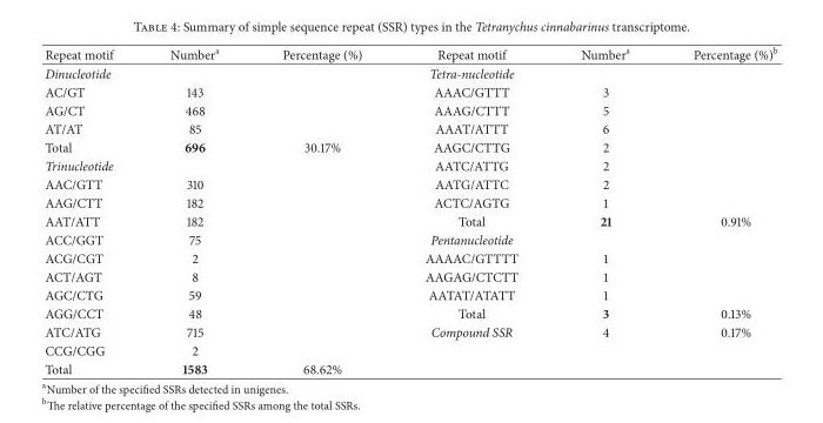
<table><thead><tr><td>Repeat motif</td><td>Number<sup>a</sup></td><td>Percentage (%)</td><td>Repeat motif</td><td>Number<sup>a</sup></td><td>Percentage (%)<sup>b</sup></td></tr></thead><tbody><tr><td>Dinucleotide</td><td></td><td></td><td>Tetra-nucleotide</td><td></td><td></td></tr><tr><td>AC/GT</td><td>143</td><td></td><td>AAAC/GTTT</td><td>3</td><td></td></tr><tr><td>AG/CT</td><td>468</td><td></td><td>AAAG/CTTT</td><td>5</td><td></td></tr><tr><td>AT/AT</td><td>85</td><td></td><td>AAAT/ATTT</td><td>6</td><td></td></tr><tr><td>Total</td><td>696</td><td>30.17%</td><td>AAGC/CTTG</td><td>2</td><td></td></tr><tr><td>Trinucleotide</td><td></td><td></td><td>AATC/ATTG</td><td>2</td><td></td></tr><tr><td>AAC/GTT</td><td>310</td><td></td><td>AATG/ATTC</td><td>2</td><td></td></tr><tr><td>AAG/CTT</td><td>182</td><td></td><td>ACTC/AGTG</td><td>1</td><td></td></tr><tr><td>AAT/ATT</td><td>182</td><td></td><td>Total</td><td>21</td><td>0.91%</td></tr><tr><td>ACC/GGT</td><td>75</td><td></td><td>Pentanucleotide</td><td></td><td></td></tr><tr><td>ACG/CGT</td><td>2</td><td></td><td>AAAAC/GTTTT</td><td>1</td><td></td></tr><tr><td>ACT/AGT</td><td>8</td><td></td><td>AAGAG/CTCTT</td><td>1</td><td></td></tr><tr><td>AGC/CTG</td><td>59</td><td></td><td>AATAT/ATATT</td><td>1</td><td></td></tr><tr><td>AGG/CCT</td><td>48</td><td></td><td>Total</td><td>3</td><td>0.13%</td></tr><tr><td>ATC/ATG</td><td>715</td><td></td><td>Compound SSR</td><td>4</td><td>0.17%</td></tr><tr><td>CCG/CGG</td><td>2</td><td></td><td></td><td></td><td></td></tr><tr><td>Total</td><td>1583</td><td>68.62%</td><td></td><td></td><td></td></tr></tbody></table>